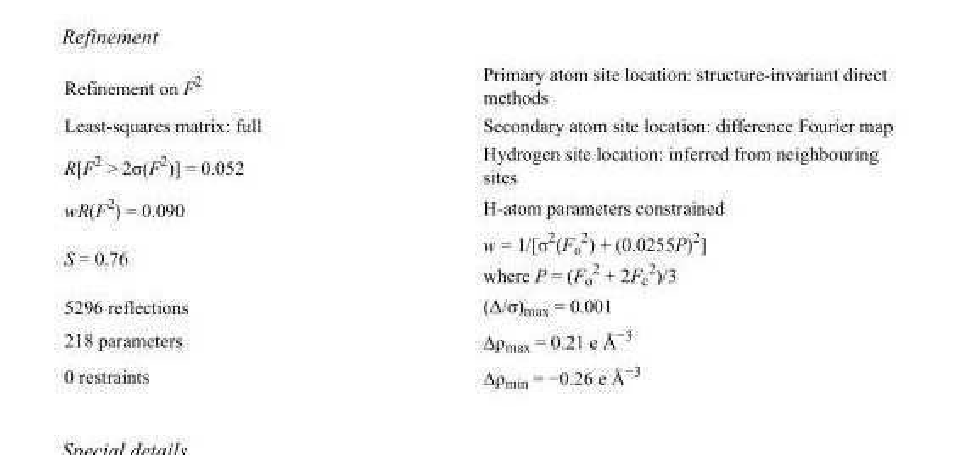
<table><tbody><tr><td>Refinement on F<sup>2</sup></td><td>Primary atom site location: structure-invariant direct methods</td></tr><tr><td>Least-squares matrix: full</td><td>Secondary atom site location: difference Fourier map</td></tr><tr><td>R[F<sup>2</sup> &gt; 2σ(F<sup>2</sup>)] = 0.052</td><td>Hydrogen site location: inferred from neighbouring sites</td></tr><tr><td>wR(F<sup>2</sup>) = 0.090</td><td>H-atom parameters constrained</td></tr><tr><td>S = 0.76</td><td>w = 1/[σ<sup>2</sup>(F<sub>o</sub> <sup>2</sup>) + (0.0255P)<sup>2</sup>] where P = (F<sub>o</sub> <sup>2</sup> + 2F<sub>c</sub> <sup>2</sup>)/3</td></tr><tr><td>5296 reflections</td><td>(Δ/σ)<sub>max</sub> = 0.001</td></tr><tr><td>218 parameters</td><td>Δρ<sub>max</sub> = 0.21 e Å<sup>−3</sup></td></tr><tr><td>0 restraints</td><td>Δρ<sub>min</sub> = −0.26 e Å<sup>−3</sup></td></tr></tbody></table>